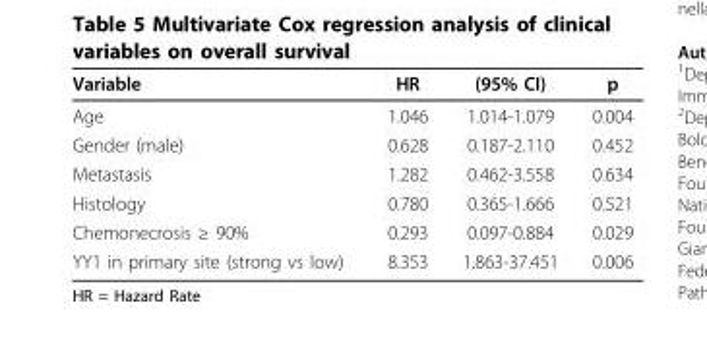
<table><thead><tr><td>Variable</td><td>HR</td><td>(95% CI)</td><td>p</td></tr></thead><tbody><tr><td>Age</td><td>1.046</td><td>1.014-1.079</td><td>0.004</td></tr><tr><td>Gender (male)</td><td>0.628</td><td>0.187-2.110</td><td>0.452</td></tr><tr><td>Metastasis</td><td>1.282</td><td>0.462-3.558</td><td>0.634</td></tr><tr><td>Histology</td><td>0.780</td><td>0.365-1.666</td><td>0.521</td></tr><tr><td>Chemonecrosis ≥ 90%</td><td>0.293</td><td>0.097-0.884</td><td>0.029</td></tr><tr><td>YY1 in primary site (strong vs low)</td><td>8.353</td><td>1.863-37.451</td><td>0.006</td></tr></tbody></table>